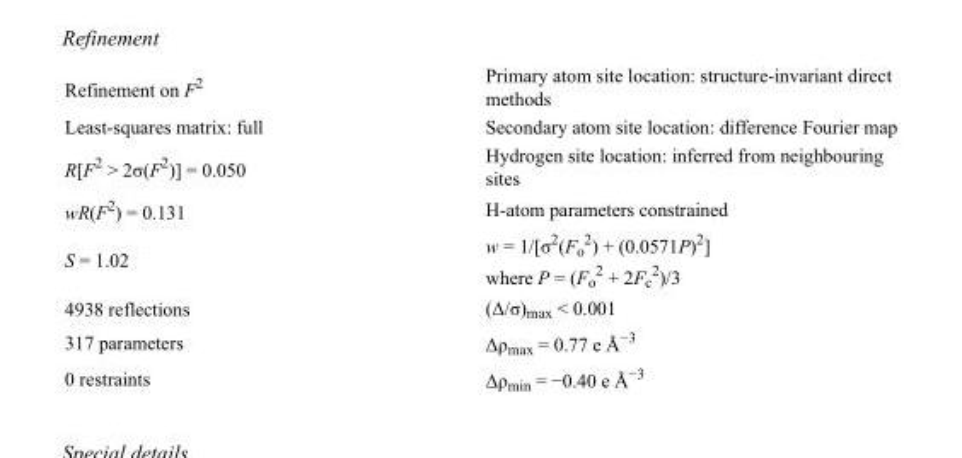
<table><tbody><tr><td>Refinement on F<sup>2</sup></td><td>Primary atom site location: structure-invariant direct methods</td></tr><tr><td>Least-squares matrix: full</td><td>Secondary atom site location: difference Fourier map</td></tr><tr><td>R[F<sup>2</sup> &gt; 2σ(F<sup>2</sup>)] = 0.050</td><td>Hydrogen site location: inferred from neighbouring sites</td></tr><tr><td>wR(F<sup>2</sup>) = 0.131</td><td>H-atom parameters constrained</td></tr><tr><td>S = 1.02</td><td>w = 1/[σ<sup>2</sup>(F<sub>o</sub> <sup>2</sup>) + (0.0571P)<sup>2</sup>] where P = (F<sub>o</sub> <sup>2</sup> + 2F<sub>c</sub> <sup>2</sup>)/3</td></tr><tr><td>4938 reflections</td><td>(Δ/σ)<sub>max</sub> &lt; 0.001</td></tr><tr><td>317 parameters</td><td>Δρ<sub>max</sub> = 0.77 e Å<sup>−3</sup></td></tr><tr><td>0 restraints</td><td>Δρ<sub>min</sub> = −0.40 e Å<sup>−3</sup></td></tr></tbody></table>